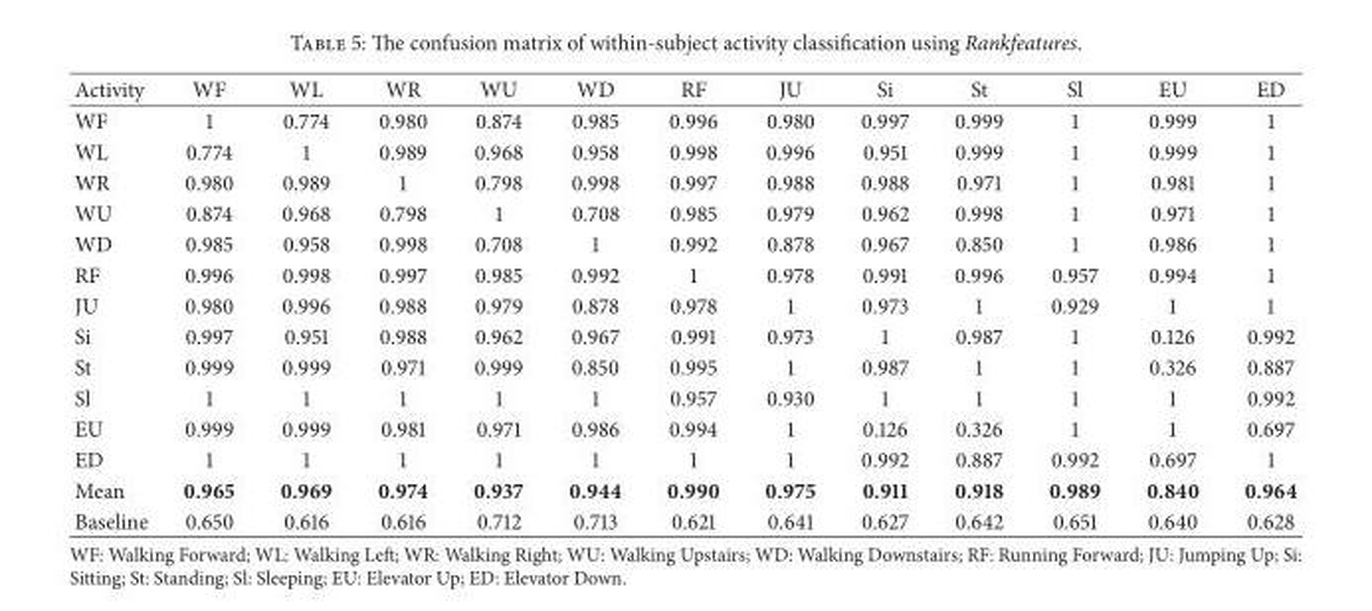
<table><thead><tr><td>Activity</td><td>WF</td><td>WL</td><td>WR</td><td>WU</td><td>WD</td><td>RF</td><td>JU</td><td>Si</td><td>St</td><td>Sl</td><td>EU</td><td>ED</td></tr></thead><tbody><tr><td>WF</td><td>1</td><td>0.774</td><td>0.980</td><td>0.874</td><td>0.985</td><td>0.996</td><td>0.980</td><td>0.997</td><td>0.999</td><td>1</td><td>0.999</td><td>1</td></tr><tr><td>WL</td><td>0.774</td><td>1</td><td>0.989</td><td>0.968</td><td>0.958</td><td>0.998</td><td>0.996</td><td>0.951</td><td>0.999</td><td>1</td><td>0.999</td><td>1</td></tr><tr><td>WR</td><td>0.980</td><td>0.989</td><td>1</td><td>0.798</td><td>0.998</td><td>0.997</td><td>0.988</td><td>0.988</td><td>0.971</td><td>1</td><td>0.981</td><td>1</td></tr><tr><td>WU</td><td>0.874</td><td>0.968</td><td>0.798</td><td>1</td><td>0.708</td><td>0.985</td><td>0.979</td><td>0.962</td><td>0.998</td><td>1</td><td>0.971</td><td>1</td></tr><tr><td>WD</td><td>0.985</td><td>0.958</td><td>0.998</td><td>0.708</td><td>1</td><td>0.992</td><td>0.878</td><td>0.967</td><td>0.850</td><td>1</td><td>0.986</td><td>1</td></tr><tr><td>RF</td><td>0.996</td><td>0.998</td><td>0.997</td><td>0.985</td><td>0.992</td><td>1</td><td>0.978</td><td>0.991</td><td>0.996</td><td>0.957</td><td>0.994</td><td>1</td></tr><tr><td>JU</td><td>0.980</td><td>0.996</td><td>0.988</td><td>0.979</td><td>0.878</td><td>0.978</td><td>1</td><td>0.973</td><td>1</td><td>0.929</td><td>1</td><td>1</td></tr><tr><td>Si</td><td>0.997</td><td>0.951</td><td>0.988</td><td>0.962</td><td>0.967</td><td>0.991</td><td>0.973</td><td>1</td><td>0.987</td><td>1</td><td>0.126</td><td>0.992</td></tr><tr><td>St</td><td>0.999</td><td>0.999</td><td>0.971</td><td>0.999</td><td>0.850</td><td>0.995</td><td>1</td><td>0.987</td><td>1</td><td>1</td><td>0.326</td><td>0.887</td></tr><tr><td>Sl</td><td>1</td><td>1</td><td>1</td><td>1</td><td>1</td><td>0.957</td><td>0.930</td><td>1</td><td>1</td><td>1</td><td>1</td><td>0.992</td></tr><tr><td>EU</td><td>0.999</td><td>0.999</td><td>0.981</td><td>0.971</td><td>0.986</td><td>0.994</td><td>1</td><td>0.126</td><td>0.326</td><td>1</td><td>1</td><td>0.697</td></tr><tr><td>ED</td><td>1</td><td>1</td><td>1</td><td>1</td><td>1</td><td>1</td><td>1</td><td>0.992</td><td>0.887</td><td>0.992</td><td>0.697</td><td>1</td></tr><tr><td>Mean</td><td>0.965</td><td>0.969</td><td>0.974</td><td>0.937</td><td>0.944</td><td>0.990</td><td>0.975</td><td>0.911</td><td>0.918</td><td>0.989</td><td>0.840</td><td>0.964</td></tr><tr><td>Baseline</td><td>0.650</td><td>0.616</td><td>0.616</td><td>0.712</td><td>0.713</td><td>0.621</td><td>0.641</td><td>0.627</td><td>0.642</td><td>0.651</td><td>0.640</td><td>0.628</td></tr></tbody></table>